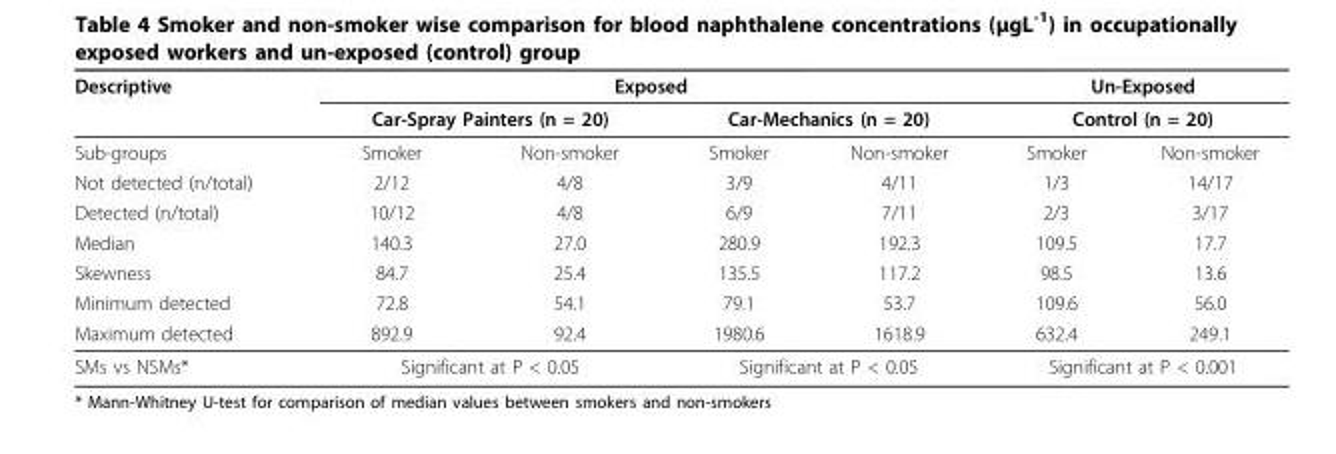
<table><thead><tr><td rowspan="3">Descriptive Sub-groups</td><td colspan="4">Exposed</td><td rowspan="2" colspan="2">Un-Exposed Control (n = 20)</td></tr><tr><td colspan="2">Car-Spray Painters (n = 20)</td><td colspan="2">Car-Mechanics (n = 20)</td></tr><tr><td>Smoker</td><td>Non-smoker</td><td>Smoker</td><td>Non-smoker</td><td>Smoker</td><td>Non-smoker</td></tr></thead><tbody><tr><td>Not detected (n/total)</td><td>2/12</td><td>4/8</td><td>3/9</td><td>4/11</td><td>1/3</td><td>14/17</td></tr><tr><td>Detected (n/total)</td><td>10/12</td><td>4/8</td><td>6/9</td><td>7/11</td><td>2/3</td><td>3/17</td></tr><tr><td>Median</td><td>140.3</td><td>27.0</td><td>280.9</td><td>192.3</td><td>109.5</td><td>17.7</td></tr><tr><td>Skewness</td><td>84.7</td><td>25.4</td><td>135.5</td><td>117.2</td><td>98.5</td><td>13.6</td></tr><tr><td>Minimum detected</td><td>72.8</td><td>54.1</td><td>79.1</td><td>53.7</td><td>109.6</td><td>56.0</td></tr><tr><td>Maximum detected</td><td>892.9</td><td>92.4</td><td>1980.6</td><td>1618.9</td><td>632.4</td><td>249.1</td></tr><tr><td>SMs vs NSMs*</td><td colspan="2">Significant at P &lt; 0.05</td><td colspan="2">Significant at P &lt; 0.05</td><td colspan="2">Significant at P &lt; 0.001</td></tr></tbody></table>